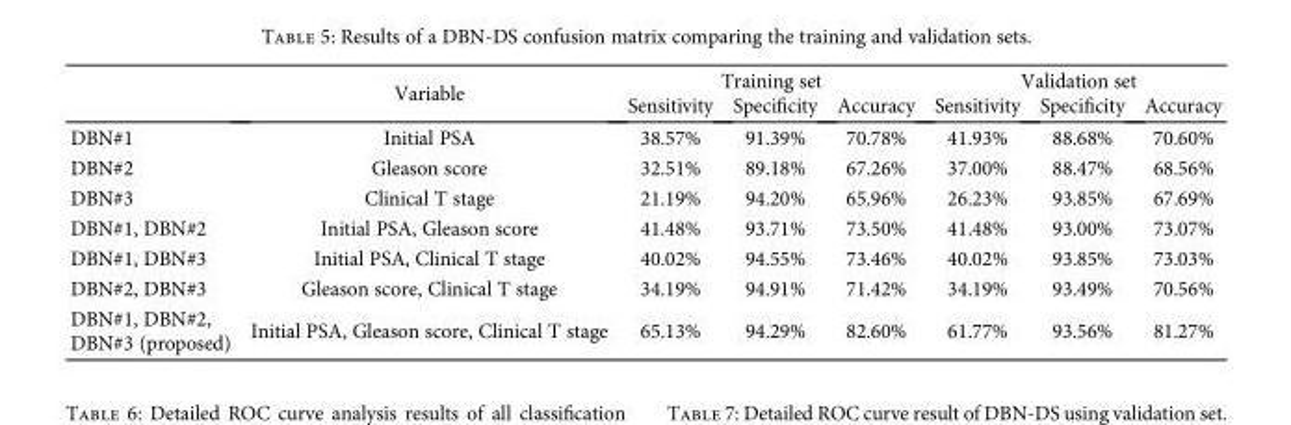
<table><thead><tr><td rowspan="2"></td><td rowspan="2">Variable</td><td colspan="3">Training set</td><td colspan="3">Validation set</td></tr><tr><td>Sensitivity</td><td>Specificity</td><td>Accuracy</td><td>Sensitivity</td><td>Specificity</td><td>Accuracy</td></tr></thead><tbody><tr><td>DBN#1</td><td>Initial PSA</td><td>38.57%</td><td>91.39%</td><td>70.78%</td><td>41.93%</td><td>88.68%</td><td>70.60%</td></tr><tr><td>DBN#2</td><td>Gleason score</td><td>32.51%</td><td>89.18%</td><td>67.26%</td><td>37.00%</td><td>88.47%</td><td>68.56%</td></tr><tr><td>DBN#3</td><td>Clinical T stage</td><td>21.19%</td><td>94.20%</td><td>65.96%</td><td>26.23%</td><td>93.85%</td><td>67.69%</td></tr><tr><td>DBN#1, DBN#2</td><td>Initial PSA, Gleason score</td><td>41.48%</td><td>93.71%</td><td>73.50%</td><td>41.48%</td><td>93.00%</td><td>73.07%</td></tr><tr><td>DBN#1, DBN#3</td><td>Initial PSA, Clinical T stage</td><td>40.02%</td><td>94.55%</td><td>73.46%</td><td>40.02%</td><td>93.85%</td><td>73.03%</td></tr><tr><td>DBN#2, DBN#3</td><td>Gleason score, Clinical T stage</td><td>34.19%</td><td>94.91%</td><td>71.42%</td><td>34.19%</td><td>93.49%</td><td>70.56%</td></tr><tr><td>DBN#1, DBN#2, DBN#3 (proposed)</td><td>Initial PSA, Gleason score, Clinical T stage</td><td>65.13%</td><td>94.29%</td><td>82.60%</td><td>61.77%</td><td>93.56%</td><td>81.27%</td></tr></tbody></table>